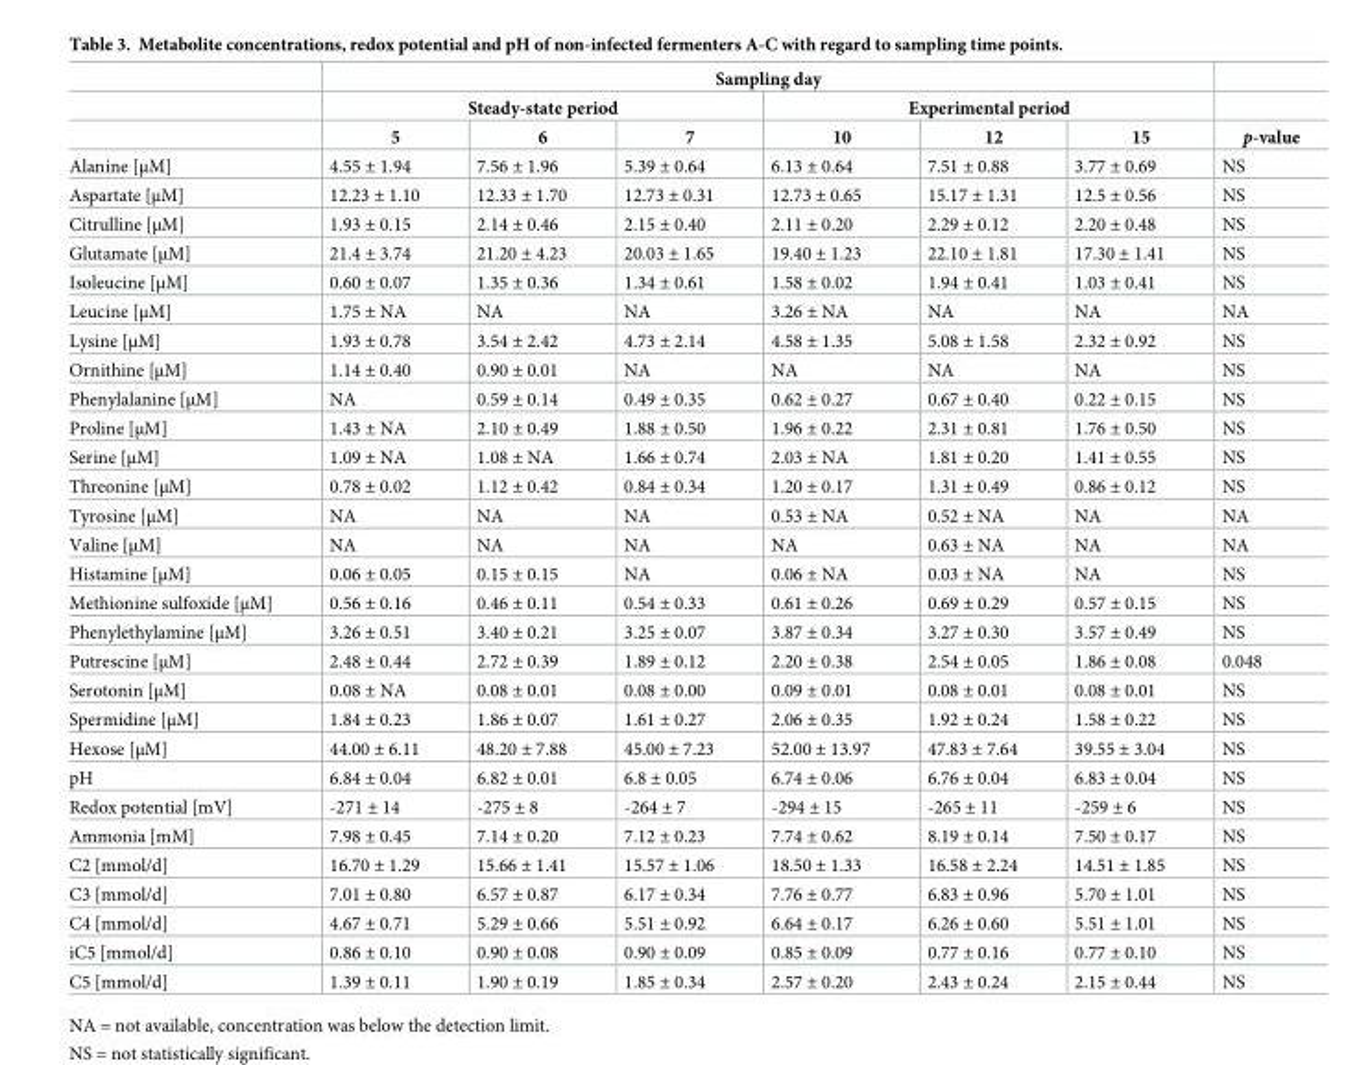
<table><thead><tr><td rowspan="3"></td><td colspan="6">Sampling day</td><td rowspan="3">p-value</td></tr><tr><td colspan="3">Steady-state period</td><td colspan="3">Experimental period</td></tr><tr><td>5</td><td>6</td><td>7</td><td>10</td><td>12</td><td>15</td></tr></thead><tbody><tr><td>Alanine [μM]</td><td>4.55 ± 1.94</td><td>7.56 ± 1.96</td><td>5.39 ± 0.64</td><td>6.13 ± 0.64</td><td>7.51 ± 0.88</td><td>3.77 ± 0.69</td><td>NS</td></tr><tr><td>Aspartate [μM]</td><td>12.23 ± 1.10</td><td>12.33 ± 1.70</td><td>12.73 ± 0.31</td><td>12.73 ± 0.65</td><td>15.17 ± 1.31</td><td>12.5 ± 0.56</td><td>NS</td></tr><tr><td>Citrulline [μM]</td><td>1.93 ± 0.15</td><td>2.14 ± 0.46</td><td>2.15 ± 0.40</td><td>2.11 ± 0.20</td><td>2.29 ± 0.12</td><td>2.20 ± 0.48</td><td>NS</td></tr><tr><td>Glutamate [μM]</td><td>21.4 ± 3.74</td><td>21.20 ± 4.23</td><td>20.03 ± 1.65</td><td>19.40 ± 1.23</td><td>22.10 ± 1.81</td><td>17.30 ± 1.41</td><td>NS</td></tr><tr><td>Isoleucine [μM]</td><td>0.60 ± 0.07</td><td>1.35 ± 0.36</td><td>1.34 ± 0.61</td><td>1.58 ± 0.02</td><td>1.94 ± 0.41</td><td>1.03 ± 0.41</td><td>NS</td></tr><tr><td>Leucine [μM]</td><td>1.75 ± NA</td><td>NA</td><td>NA</td><td>3.26 ± NA</td><td>NA</td><td>NA</td><td>NA</td></tr><tr><td>Lysine [μM]</td><td>1.93 ± 0.78</td><td>3.54 ± 2.42</td><td>4.73 ± 2.14</td><td>4.58 ± 1.35</td><td>5.08 ± 1.58</td><td>2.32 ± 0.92</td><td>NS</td></tr><tr><td>Ornithine [μM]</td><td>1.14 ± 0.40</td><td>0.90 ± 0.01</td><td>NA</td><td>NA</td><td>NA</td><td>NA</td><td>NS</td></tr><tr><td>Phenylalanine [μM]</td><td>NA</td><td>0.59 ± 0.14</td><td>0.49 ± 0.35</td><td>0.62 ± 0.27</td><td>0.67 ± 0.40</td><td>0.22 ± 0.15</td><td>NS</td></tr><tr><td>Proline [μM]</td><td>1.43 ± NA</td><td>2.10 ± 0.49</td><td>1.88 ± 0.50</td><td>1.96 ± 0.22</td><td>2.31 ± 0.81</td><td>1.76 ± 0.50</td><td>NS</td></tr><tr><td>Serine [μM]</td><td>1.09 ± NA</td><td>1.08 ± NA</td><td>1.66 ± 0.74</td><td>2.03 ± NA</td><td>1.81 ± 0.20</td><td>1.41 ± 0.55</td><td>NS</td></tr><tr><td>Threonine [μM]</td><td>0.78 ± 0.02</td><td>1.12 ± 0.42</td><td>0.84 ± 0.34</td><td>1.20 ± 0.17</td><td>1.31 ± 0.49</td><td>0.86 ± 0.12</td><td>NS</td></tr><tr><td>Tyrosine [μM]</td><td>NA</td><td>NA</td><td>NA</td><td>0.53 ± NA</td><td>0.52 ± NA</td><td>NA</td><td>NA</td></tr><tr><td>Valine [μM]</td><td>NA</td><td>NA</td><td>NA</td><td>NA</td><td>0.63 ± NA</td><td>NA</td><td>NA</td></tr><tr><td>Histamine [μM]</td><td>0.06 ± 0.05</td><td>0.15 ± 0.15</td><td>NA</td><td>0.06 ± NA</td><td>0.03 ± NA</td><td>NA</td><td>NS</td></tr><tr><td>Methionine sulfoxide [μM]</td><td>0.56 ± 0.16</td><td>0.46 ± 0.11</td><td>0.54 ± 0.33</td><td>0.61 ± 0.26</td><td>0.69 ± 0.29</td><td>0.57 ± 0.15</td><td>NS</td></tr><tr><td>Phenylethylamine [μM]</td><td>3.26 ± 0.51</td><td>3.40 ± 0.21</td><td>3.25 ± 0.07</td><td>3.87 ± 0.34</td><td>3.27 ± 0.30</td><td>3.57 ± 0.49</td><td>NS</td></tr><tr><td>Putrescine [μM]</td><td>2.48 ± 0.44</td><td>2.72 ± 0.39</td><td>1.89 ± 0.12</td><td>2.20 ± 0.38</td><td>2.54 ± 0.05</td><td>1.86 ± 0.08</td><td>0.048</td></tr><tr><td>Serotonin [μM]</td><td>0.08 ± NA</td><td>0.08 ± 0.01</td><td>0.08 ± 0.00</td><td>0.09 ± 0.01</td><td>0.08 ± 0.01</td><td>0.08 ± 0.01</td><td>NS</td></tr><tr><td>Spermidine [μM]</td><td>1.84 ± 0.23</td><td>1.86 ± 0.07</td><td>1.61 ± 0.27</td><td>2.06 ± 0.35</td><td>1.92 ± 0.24</td><td>1.58 ± 0.22</td><td>NS</td></tr><tr><td>Hexose [μM]</td><td>44.00 ± 6.11</td><td>48.20 ± 7.88</td><td>45.00 ± 7.23</td><td>52.00 ± 13.97</td><td>47.83 ± 7.64</td><td>39.55 ± 3.04</td><td>NS</td></tr><tr><td>pH</td><td>6.84 ± 0.04</td><td>6.82 ± 0.01</td><td>6.8 ± 0.05</td><td>6.74 ± 0.06</td><td>6.76 ± 0.04</td><td>6.83 ± 0.04</td><td>NS</td></tr><tr><td>Redox potential [mV]</td><td>-271 ± 14</td><td>-275 ± 8</td><td>-264 ± 7</td><td>-294 ± 15</td><td>-265 ± 11</td><td>-259 ± 6</td><td>NS</td></tr><tr><td>Ammonia [mM]</td><td>7.98 ± 0.45</td><td>7.14 ± 0.20</td><td>7.12 ± 0.23</td><td>7.74 ± 0.62</td><td>8.19 ± 0.14</td><td>7.50 ± 0.17</td><td>NS</td></tr><tr><td>C2 [mmol/d]</td><td>16.70 ± 1.29</td><td>15.66 ± 1.41</td><td>15.57 ± 1.06</td><td>18.50 ± 1.33</td><td>16.58 ± 2.24</td><td>14.51 ± 1.85</td><td>NS</td></tr><tr><td>C3 [mmol/d]</td><td>7.01 ± 0.80</td><td>6.57 ± 0.87</td><td>6.17 ± 0.34</td><td>7.76 ± 0.77</td><td>6.83 ± 0.96</td><td>5.70 ± 1.01</td><td>NS</td></tr><tr><td>C4 [mmol/d]</td><td>4.67 ± 0.71</td><td>5.29 ± 0.66</td><td>5.51 ± 0.92</td><td>6.64 ± 0.17</td><td>6.26 ± 0.60</td><td>5.51 ± 1.01</td><td>NS</td></tr><tr><td>iC5 [mmol/d]</td><td>0.86 ± 0.10</td><td>0.90 ± 0.08</td><td>0.90 ± 0.09</td><td>0.85 ± 0.09</td><td>0.77 ± 0.16</td><td>0.77 ± 0.10</td><td>NS</td></tr><tr><td>C5 [mmol/d]</td><td>1.39 ± 0.11</td><td>1.90 ± 0.19</td><td>1.85 ± 0.34</td><td>2.57 ± 0.20</td><td>2.43 ± 0.24</td><td>2.15 ± 0.44</td><td>NS</td></tr></tbody></table>